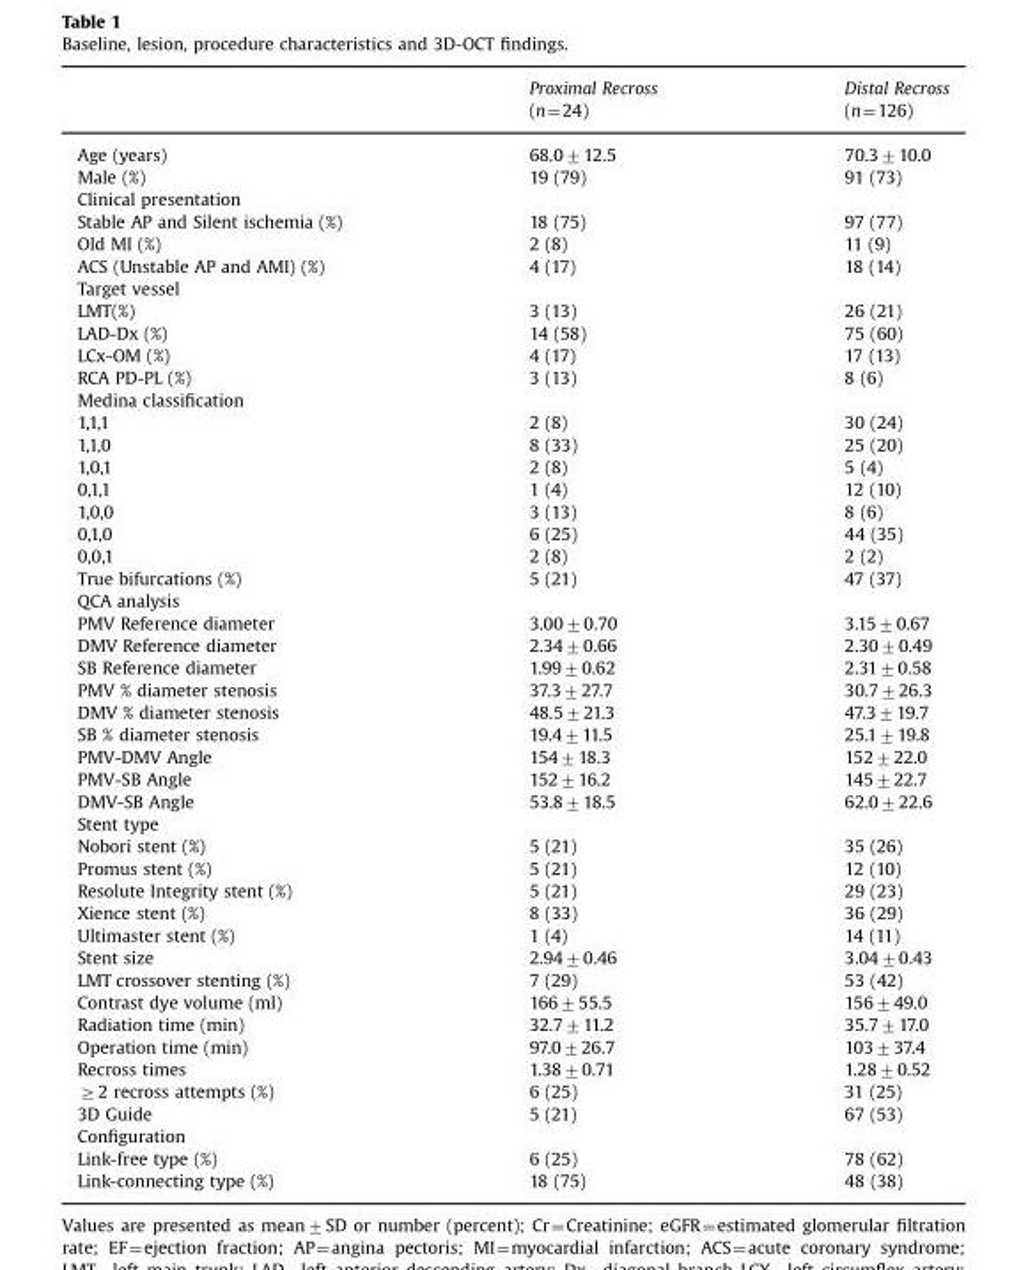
<table><thead><tr><td rowspan="2"></td><td rowspan="2">Proximal Recross (n=24)</td><td rowspan="2">Distal Recross (n=126)</td></tr><tr></tr></thead><tbody><tr><td>Age (years)</td><td>68.0±12.5</td><td>70.3±10.0</td></tr><tr><td>Male (%)</td><td>19 (79)</td><td>91 (73)</td></tr><tr><td colspan="3">Clinical presentation</td></tr><tr><td>Stable AP and Silent ischemia (%)</td><td>18 (75)</td><td>97 (77)</td></tr><tr><td>Old MI (%)</td><td>2 (8)</td><td>11 (9)</td></tr><tr><td>ACS (Unstable AP and AMI) (%)</td><td>4 (17)</td><td>18 (14)</td></tr><tr><td colspan="3">Target vessel</td></tr><tr><td>LMT(%)</td><td>3 (13)</td><td>26 (21)</td></tr><tr><td>LAD-Dx (%)</td><td>14 (58)</td><td>75 (60)</td></tr><tr><td>LCx-OM (%)</td><td>4 (17)</td><td>17 (13)</td></tr><tr><td>RCA PD-PL (%)</td><td>3 (13)</td><td>8 (6)</td></tr><tr><td colspan="3">Medina classification</td></tr><tr><td>1,1,1</td><td>2 (8)</td><td>30 (24)</td></tr><tr><td>1,1,0</td><td>8 (33)</td><td>25 (20)</td></tr><tr><td>1,0,1</td><td>2 (8)</td><td>5 (4)</td></tr><tr><td>0,1,1</td><td>1 (4)</td><td>12 (10)</td></tr><tr><td>1,0,0</td><td>3 (13)</td><td>8 (6)</td></tr><tr><td>0,1,0</td><td>6 (25)</td><td>44 (35)</td></tr><tr><td>0,0,1</td><td>2 (8)</td><td>2 (2)</td></tr><tr><td>True bifurcations (%)</td><td>5 (21)</td><td>47 (37)</td></tr><tr><td colspan="3">QCA analysis</td></tr><tr><td>PMV Reference diameter</td><td>3.00±0.70</td><td>3.15±0.67</td></tr><tr><td>DMV Reference diameter</td><td>2.34±0.66</td><td>2.30±0.49</td></tr><tr><td>SB Reference diameter</td><td>1.99±0.62</td><td>2.31±0.58</td></tr><tr><td>PMV % diameter stenosis</td><td>37.3±27.7</td><td>30.7±26.3</td></tr><tr><td>DMV % diameter stenosis</td><td>48.5±21.3</td><td>47.3±19.7</td></tr><tr><td>SB % diameter stenosis</td><td>19.4±11.5</td><td>25.1±19.8</td></tr><tr><td>PMV-DMV Angle</td><td>154±18.3</td><td>152±22.0</td></tr><tr><td>PMV-SB Angle</td><td>152±16.2</td><td>145±22.7</td></tr><tr><td>DMV-SB Angle</td><td>53.8±18.5</td><td>62.0±22.6</td></tr><tr><td colspan="3">Stent type</td></tr><tr><td>Nobori stent (%)</td><td>5 (21)</td><td>35 (26)</td></tr><tr><td>Promus stent (%)</td><td>5 (21)</td><td>12 (10)</td></tr><tr><td>Resolute Integrity stent (%)</td><td>5 (21)</td><td>29 (23)</td></tr><tr><td>Xience stent (%)</td><td>8 (33)</td><td>36 (29)</td></tr><tr><td>Ultimaster stent (%)</td><td>1 (4)</td><td>14 (11)</td></tr><tr><td>Stent size</td><td>2.94±0.46</td><td>3.04±0.43</td></tr><tr><td>LMT crossover stenting (%)</td><td>7 (29)</td><td>53 (42)</td></tr><tr><td>Contrast dye volume (ml)</td><td>166±55.5</td><td>156±49.0</td></tr><tr><td>Radiation time (min)</td><td>32.7±11.2</td><td>35.7±17.0</td></tr><tr><td>Operation time (min)</td><td>97.0±26.7</td><td>103±37.4</td></tr><tr><td>Recross times</td><td>1.38±0.71</td><td>1.28±0.52</td></tr><tr><td>≥2 recross attempts (%)</td><td>6 (25)</td><td>31 (25)</td></tr><tr><td>3D Guide</td><td>5 (21)</td><td>67 (53)</td></tr><tr><td colspan="3">Configuration</td></tr><tr><td>Link-free type (%)</td><td>6 (25)</td><td>78 (62)</td></tr><tr><td>Link-connecting type (%)</td><td>18 (75)</td><td>48 (38)</td></tr></tbody></table>